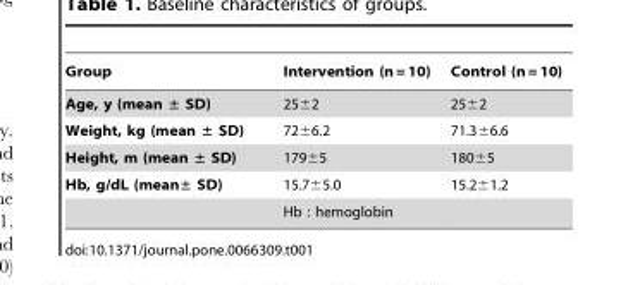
<table><thead><tr><td>Group</td><td>Intervention (n = 10)</td><td>Control (n = 10)</td></tr></thead><tbody><tr><td>Age, y (mean ± SD)</td><td>25±2</td><td>25±2</td></tr><tr><td>Weight, kg (mean ± SD)</td><td>72±6.2</td><td>71.3±6.6</td></tr><tr><td>Height, m (mean ± SD)</td><td>179±5</td><td>180±5</td></tr><tr><td rowspan="2">Hb, g/dL (mean± SD)</td><td>15.7±5.0</td><td>15.2±1.2</td></tr><tr><td>Hb : hemoglobin</td><td></td></tr></tbody></table>